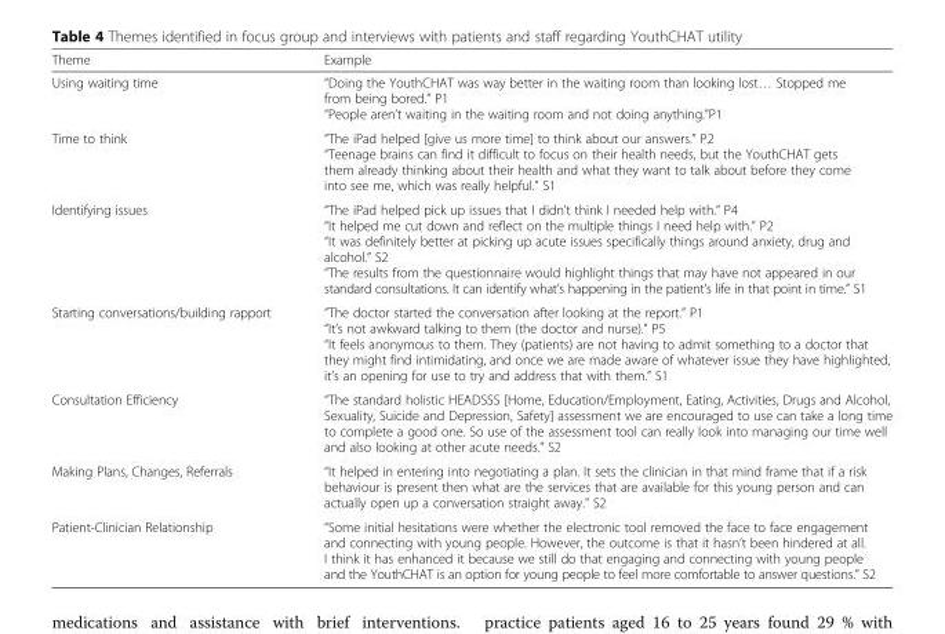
<table><thead><tr><td>Theme</td><td>Example</td></tr></thead><tbody><tr><td>Using waiting time</td><td>“Doing the YouthCHAT was way better in the waiting room than looking lost… Stopped me from being bored.” P1 “People aren’t waiting in the waiting room and not doing anything.”P1</td></tr><tr><td>Time to think</td><td>“The iPad helped [give us more time] to think about our answers.” P2 “Teenage brains can find it difficult to focus on their health needs, but the YouthCHAT gets them already thinking about their health and what they want to talk about before they come into see me, which was really helpful.” S1</td></tr><tr><td>Identifying issues</td><td>“The iPad helped pick up issues that I didn’t think I needed help with.” P4 “It helped me cut down and reflect on the multiple things I need help with.” P2 “It was definitely better at picking up acute issues specifically things around anxiety, drug and alcohol.” S2 “The results from the questionnaire would highlight things that may have not appeared in our standard consultations. It can identify what’s happening in the patient’s life in that point in time.” S1</td></tr><tr><td>Starting conversations/building rapport</td><td>“The doctor started the conversation after looking at the report.” P1 “It’s not awkward talking to them (the doctor and nurse).” P5 “It feels anonymous to them. They (patients) are not having to admit something to a doctor that they might find intimidating, and once we are made aware of whatever issue they have highlighted, it’s an opening for use to try and address that with them.” S1</td></tr><tr><td>Consultation Efficiency</td><td>“The standard holistic HEADSSS [Home, Education/Employment, Eating, Activities, Drugs and Alcohol, Sexuality, Suicide and Depression, Safety] assessment we are encouraged to use can take a long time to complete a good one. So use of the assessment tool can really look into managing our time well and also looking at other acute needs.” S2</td></tr><tr><td>Making Plans, Changes, Referrals</td><td>“It helped in entering into negotiating a plan. It sets the clinician in that mind frame that if a risk behaviour is present then what are the services that are available for this young person and can actually open up a conversation straight away.” S2</td></tr><tr><td>Patient-Clinician Relationship</td><td>“Some initial hesitations were whether the electronic tool removed the face to face engagement and connecting with young people. However, the outcome is that it hasn’t been hindered at all. I think it has enhanced it because we still do that engaging and connecting with young people and the YouthCHAT is an option for young people to feel more comfortable to answer questions.” S2</td></tr></tbody></table>